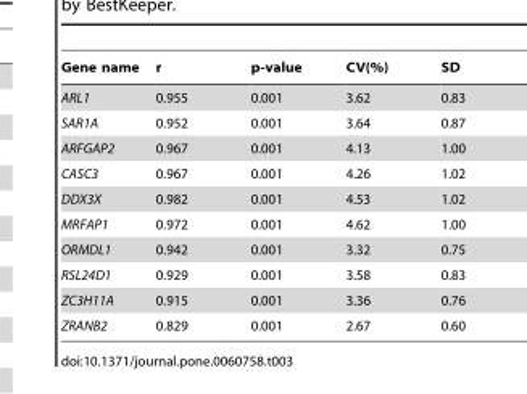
<table><thead><tr><td>Gene name</td><td>r</td><td>p-value</td><td>CV(%)</td><td>SD</td></tr></thead><tbody><tr><td>ARL1</td><td>0.955</td><td>0.001</td><td>3.62</td><td>0.83</td></tr><tr><td>SAR1A</td><td>0.952</td><td>0.001</td><td>3.64</td><td>0.87</td></tr><tr><td>ARFGAP2</td><td>0.967</td><td>0.001</td><td>4.13</td><td>1.00</td></tr><tr><td>CASC3</td><td>0.967</td><td>0.001</td><td>4.26</td><td>1.02</td></tr><tr><td>DDX3X</td><td>0.982</td><td>0.001</td><td>4.53</td><td>1.02</td></tr><tr><td>MRFAP1</td><td>0.972</td><td>0.001</td><td>4.62</td><td>1.00</td></tr><tr><td>ORMDL1</td><td>0.942</td><td>0.001</td><td>3.32</td><td>0.75</td></tr><tr><td>RSL24D1</td><td>0.929</td><td>0.001</td><td>3.58</td><td>0.83</td></tr><tr><td>ZC3H11A</td><td>0.915</td><td>0.001</td><td>3.36</td><td>0.76</td></tr><tr><td>ZRANB2</td><td>0.829</td><td>0.001</td><td>2.67</td><td>0.60</td></tr></tbody></table>